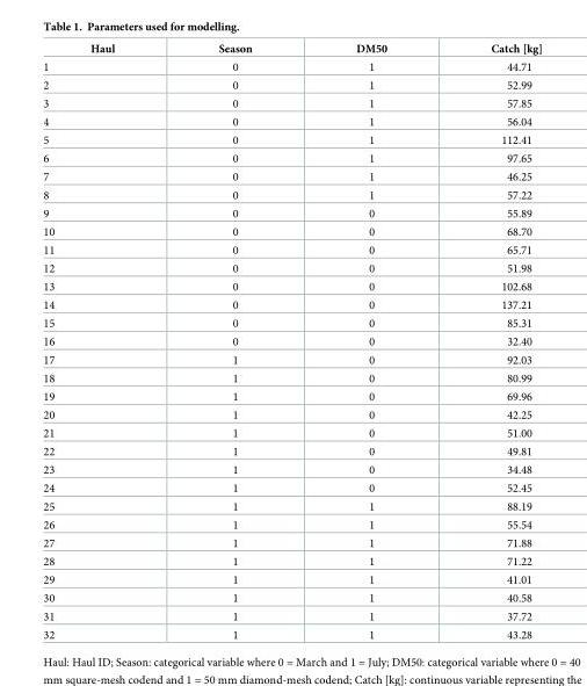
<table><thead><tr><td>Haul</td><td>Season</td><td>DM50</td><td>Catch [kg]</td></tr></thead><tbody><tr><td>1</td><td>0</td><td>1</td><td>44.71</td></tr><tr><td>2</td><td>0</td><td>1</td><td>52.99</td></tr><tr><td>3</td><td>0</td><td>1</td><td>57.85</td></tr><tr><td>4</td><td>0</td><td>1</td><td>56.04</td></tr><tr><td>5</td><td>0</td><td>1</td><td>112.41</td></tr><tr><td>6</td><td>0</td><td>1</td><td>97.65</td></tr><tr><td>7</td><td>0</td><td>1</td><td>46.25</td></tr><tr><td>8</td><td>0</td><td>1</td><td>57.22</td></tr><tr><td>9</td><td>0</td><td>0</td><td>55.89</td></tr><tr><td>10</td><td>0</td><td>0</td><td>68.70</td></tr><tr><td>11</td><td>0</td><td>0</td><td>65.71</td></tr><tr><td>12</td><td>0</td><td>0</td><td>51.98</td></tr><tr><td>13</td><td>0</td><td>0</td><td>102.68</td></tr><tr><td>14</td><td>0</td><td>0</td><td>137.21</td></tr><tr><td>15</td><td>0</td><td>0</td><td>85.31</td></tr><tr><td>16</td><td>0</td><td>0</td><td>32.40</td></tr><tr><td>17</td><td>1</td><td>0</td><td>92.03</td></tr><tr><td>18</td><td>1</td><td>0</td><td>80.99</td></tr><tr><td>19</td><td>1</td><td>0</td><td>69.96</td></tr><tr><td>20</td><td>1</td><td>0</td><td>42.25</td></tr><tr><td>21</td><td>1</td><td>0</td><td>51.00</td></tr><tr><td>22</td><td>1</td><td>0</td><td>49.81</td></tr><tr><td>23</td><td>1</td><td>0</td><td>34.48</td></tr><tr><td>24</td><td>1</td><td>0</td><td>52.45</td></tr><tr><td>25</td><td>1</td><td>1</td><td>88.19</td></tr><tr><td>26</td><td>1</td><td>1</td><td>55.54</td></tr><tr><td>27</td><td>1</td><td>1</td><td>71.88</td></tr><tr><td>28</td><td>1</td><td>1</td><td>71.22</td></tr><tr><td>29</td><td>1</td><td>1</td><td>41.01</td></tr><tr><td>30</td><td>1</td><td>1</td><td>40.58</td></tr><tr><td>31</td><td>1</td><td>1</td><td>37.72</td></tr><tr><td>32</td><td>1</td><td>1</td><td>43.28</td></tr></tbody></table>